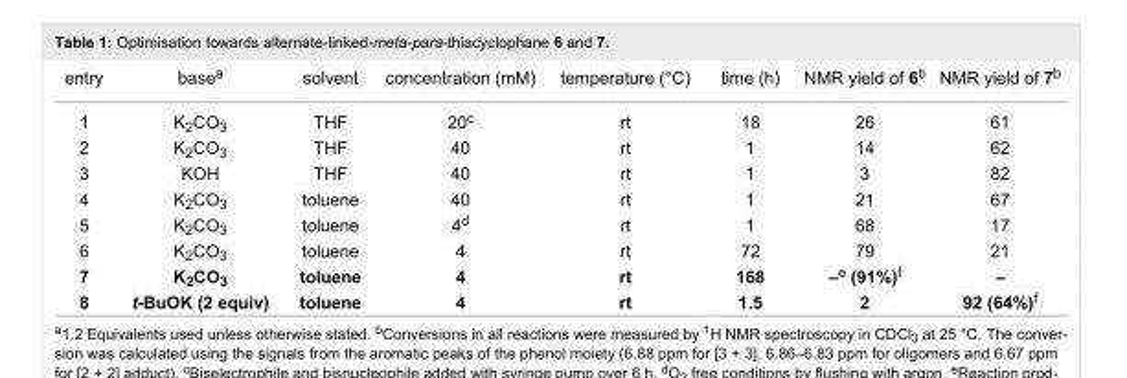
<table><tbody><tr><td>entry</td><td>base<sup>a</sup></td><td>solvent</td><td>concentration (mM)</td><td>temperature (°C)</td><td>time (h)</td><td>NMR yield of 6<sup>b</sup></td><td>NMR yield of 7<sup>b</sup></td></tr><tr><td>1</td><td>K<sub>2</sub>CO<sub>3</sub></td><td>THF</td><td>20<sup>c</sup></td><td>rt</td><td>18</td><td>26</td><td>61</td></tr><tr><td>2</td><td>K<sub>2</sub>CO<sub>3</sub></td><td>THF</td><td>40</td><td>rt</td><td>1</td><td>14</td><td>62</td></tr><tr><td>3</td><td>KOH</td><td>THF</td><td>40</td><td>rt</td><td>1</td><td>3</td><td>82</td></tr><tr><td>4</td><td>K<sub>2</sub>CO<sub>3</sub></td><td>toluene</td><td>40</td><td>rt</td><td>1</td><td>21</td><td>67</td></tr><tr><td>5</td><td>K<sub>2</sub>CO<sub>3</sub></td><td>toluene</td><td>4<sup>d</sup></td><td>rt</td><td>1</td><td>68</td><td>17</td></tr><tr><td>6</td><td>K<sub>2</sub>CO<sub>3</sub></td><td>toluene</td><td>4</td><td>rt</td><td>72</td><td>79</td><td>21</td></tr><tr><td>7</td><td>K<sub>2</sub>CO<sub>3</sub></td><td>toluene</td><td>4</td><td>rt</td><td>168</td><td>–<sup>e</sup> (91%)<sup>f</sup></td><td>–</td></tr><tr><td>8</td><td>t-BuOK (2 equiv)</td><td>toluene</td><td>4</td><td>rt</td><td>1.5</td><td>2</td><td>92 (64%)<sup>f</sup></td></tr></tbody></table>